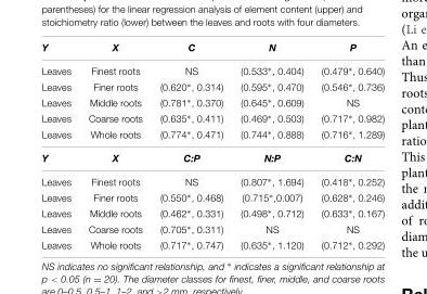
<table><thead><tr><td>Y</td><td>X</td><td>C</td><td>N</td><td>P</td></tr></thead><tbody><tr><td>Leaves</td><td>Finest roots</td><td>NS</td><td>(0.533∗, 0.404)</td><td>(0.479∗, 0.640)</td></tr><tr><td>Leaves</td><td>Finer roots</td><td>(0.620∗, 0.314)</td><td>(0.595∗, 0.470)</td><td>(0.546∗, 0.736)</td></tr><tr><td>Leaves</td><td>Middle roots</td><td>(0.781∗, 0.370)</td><td>(0.645∗, 0.609)</td><td>NS</td></tr><tr><td>Leaves</td><td>Coarse roots</td><td>(0.635∗, 0.411)</td><td>(0.469∗, 0.503)</td><td>(0.717∗, 0.982)</td></tr><tr><td>Leaves</td><td>Whole roots</td><td>(0.774∗, 0.471)</td><td>(0.744∗, 0.888)</td><td>(0.716∗, 1.289)</td></tr><tr><td>Y</td><td>X</td><td>C:P</td><td>N:P</td><td>C:N</td></tr><tr><td>Leaves</td><td>Finest roots</td><td>NS</td><td>(0.807∗, 1.694)</td><td>(0.418∗, 0.252)</td></tr><tr><td>Leaves</td><td>Finer roots</td><td>(0.550∗, 0.468)</td><td>(0.715∗,0.007)</td><td>(0.628∗, 0.246)</td></tr><tr><td>Leaves</td><td>Middle roots</td><td>(0.462∗, 0.331)</td><td>(0.498∗, 0.712)</td><td>(0.633∗, 0.167)</td></tr><tr><td>Leaves</td><td>Coarse roots</td><td>(0.705∗, 0.311)</td><td>NS</td><td>NS</td></tr><tr><td>Leaves</td><td>Whole roots</td><td>(0.717∗, 0.747)</td><td>(0.635∗, 1.120)</td><td>(0.712∗, 0.292)</td></tr></tbody></table>